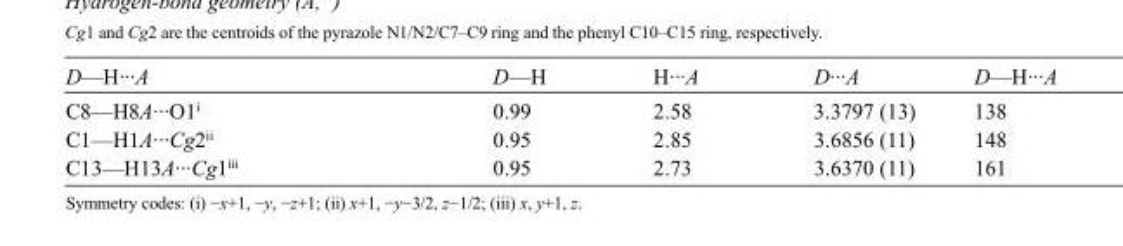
<table><tbody><tr><td>D—H···A</td><td>D—H</td><td>H···A</td><td>D···A</td><td>D—H···A</td></tr><tr><td>C8—H8A···O1<sup>i</sup></td><td>0.99</td><td>2.58</td><td>3.3797 (13)</td><td>138</td></tr><tr><td>C1—H1A···Cg2<sup>ii</sup></td><td>0.95</td><td>2.85</td><td>3.6856 (11)</td><td>148</td></tr><tr><td>C13—H13A···Cg1<sup>iii</sup></td><td>0.95</td><td>2.73</td><td>3.6370 (11)</td><td>161</td></tr></tbody></table>